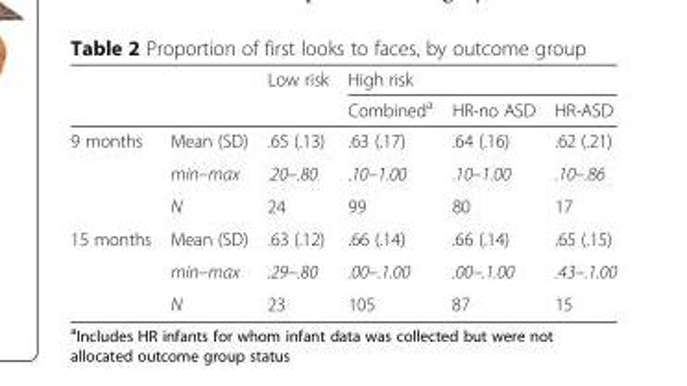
<table><thead><tr><td rowspan="2"></td><td rowspan="2"></td><td rowspan="2">Low risk</td><td colspan="3">High risk</td></tr><tr><td>Combined<sup>a</sup></td><td>HR-no ASD</td><td>HR-ASD</td></tr></thead><tbody><tr><td rowspan="3">9 months</td><td>Mean (SD)</td><td>.65 (.13)</td><td>.63 (.17)</td><td>.64 (.16)</td><td>.62 (.21)</td></tr><tr><td>min–max</td><td>.20–.80</td><td>.10–1.00</td><td>.10–1.00</td><td>.10–.86</td></tr><tr><td>N</td><td>24</td><td>99</td><td>80</td><td>17</td></tr><tr><td rowspan="3">15 months</td><td>Mean (SD)</td><td>.63 (.12)</td><td>.66 (.14)</td><td>.66 (.14)</td><td>.65 (.15)</td></tr><tr><td>min–max</td><td>.29–.80</td><td>.00–.1.00</td><td>.00–.1.00</td><td>.43–.1.00</td></tr><tr><td>N</td><td>23</td><td>105</td><td>87</td><td>15</td></tr></tbody></table>